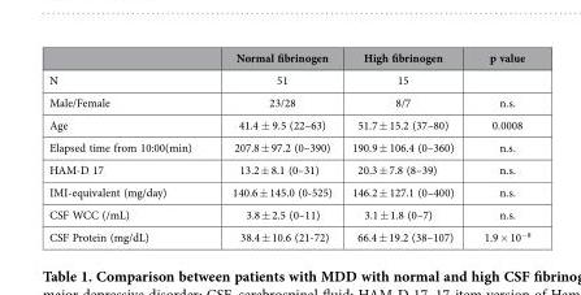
<table><thead><tr><td></td><td>Normal fibrinogen</td><td>High fibrinogen</td><td>p value</td></tr></thead><tbody><tr><td>N</td><td>51</td><td>15</td><td></td></tr><tr><td>Male/Female</td><td>23/28</td><td>8/7</td><td>n.s.</td></tr><tr><td>Age</td><td>41.4 ± 9.5 (22–63)</td><td>51.7 ± 15.2 (37–80)</td><td>0.0008</td></tr><tr><td>Elapsed time from 10:00(min)</td><td>207.8 ± 97.2 (0–390)</td><td>190.9 ± 106.4 (0–360)</td><td>n.s.</td></tr><tr><td>HAM-D 17</td><td>13.2 ± 8.1 (0–31)</td><td>20.3 ± 7.8 (8–39)</td><td>n.s.</td></tr><tr><td>IMI-equivalent (mg/day)</td><td>140.6 ± 145.0 (0-525)</td><td>146.2 ± 127.1 (0–400)</td><td>n.s.</td></tr><tr><td>CSF WCC (/mL)</td><td>3.8 ± 2.5 (0–11)</td><td>3.1 ± 1.8 (0–7)</td><td>n.s.</td></tr><tr><td>CSF Protein (mg/dL)</td><td>38.4 ± 10.6 (21-72)</td><td>66.4 ± 19.2 (38–107)</td><td>1.9 × 10<sup>−8</sup></td></tr></tbody></table>